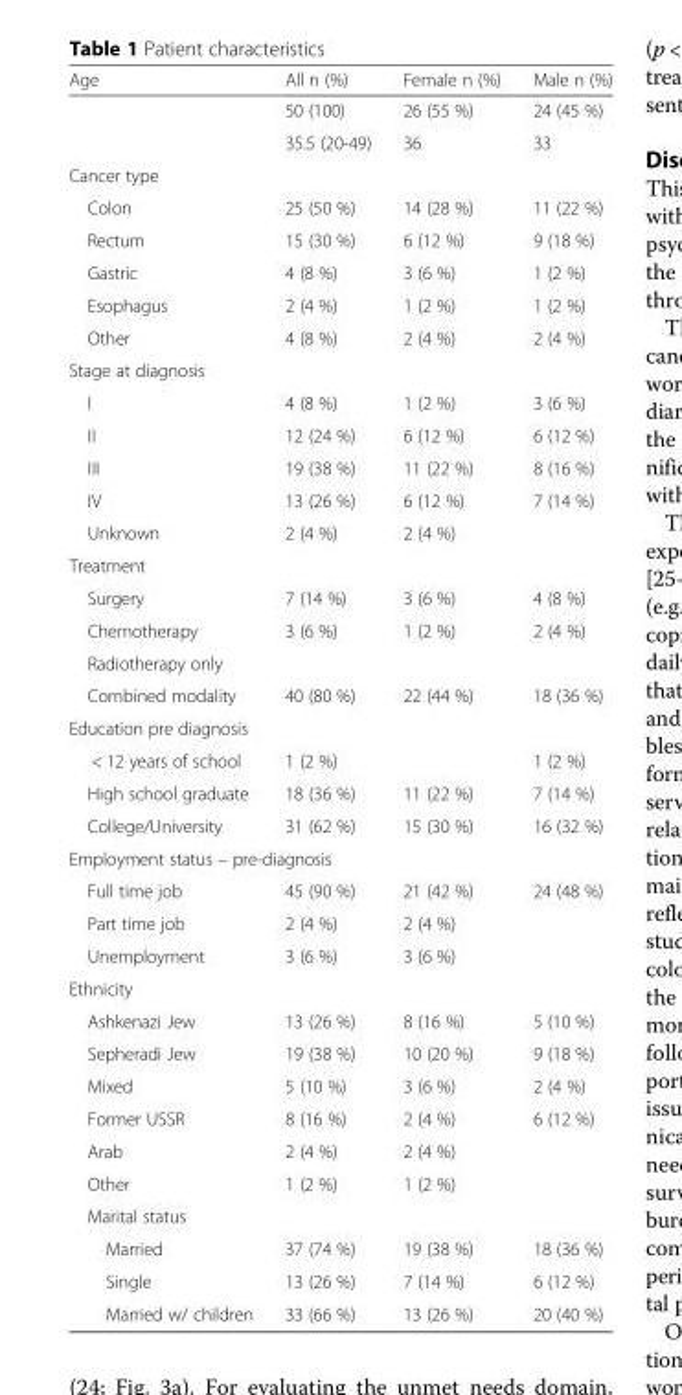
<table><thead><tr><td>Age</td><td>All n (%)</td><td>Female n (%)</td><td>Male n (%)</td></tr></thead><tbody><tr><td></td><td>50 (100)</td><td>26 (55 %)</td><td>24 (45 %)</td></tr><tr><td></td><td>35.5 (20-49)</td><td>36</td><td>33</td></tr><tr><td colspan="4">Cancer type</td></tr><tr><td>Colon</td><td>25 (50 %)</td><td>14 (28 %)</td><td>11 (22 %)</td></tr><tr><td>Rectum</td><td>15 (30 %)</td><td>6 (12 %)</td><td>9 (18 %)</td></tr><tr><td>Gastric</td><td>4 (8 %)</td><td>3 (6 %)</td><td>1 (2 %)</td></tr><tr><td>Esophagus</td><td>2 (4 %)</td><td>1 (2 %)</td><td>1 (2 %)</td></tr><tr><td>Other</td><td>4 (8 %)</td><td>2 (4 %)</td><td>2 (4 %)</td></tr><tr><td colspan="4">Stage at diagnosis</td></tr><tr><td>I</td><td>4 (8 %)</td><td>1 (2 %)</td><td>3 (6 %)</td></tr><tr><td>II</td><td>12 (24 %)</td><td>6 (12 %)</td><td>6 (12 %)</td></tr><tr><td>III</td><td>19 (38 %)</td><td>11 (22 %)</td><td>8 (16 %)</td></tr><tr><td>IV</td><td>13 (26 %)</td><td>6 (12 %)</td><td>7 (14 %)</td></tr><tr><td>Unknown</td><td>2 (4 %)</td><td>2 (4 %)</td><td></td></tr><tr><td colspan="4">Treatment</td></tr><tr><td>Surgery</td><td>7 (14 %)</td><td>3 (6 %)</td><td>4 (8 %)</td></tr><tr><td>Chemotherapy</td><td>3 (6 %)</td><td>1 (2 %)</td><td>2 (4 %)</td></tr><tr><td colspan="4">Radiotherapy only</td></tr><tr><td>Combined modality</td><td>40 (80 %)</td><td>22 (44 %)</td><td>18 (36 %)</td></tr><tr><td colspan="4">Education pre diagnosis</td></tr><tr><td>&lt; 12 years of school</td><td>1 (2 %)</td><td></td><td>1 (2 %)</td></tr><tr><td>High school graduate</td><td>18 (36 %)</td><td>11 (22 %)</td><td>7 (14 %)</td></tr><tr><td>College/University</td><td>31 (62 %)</td><td>15 (30 %)</td><td>16 (32 %)</td></tr><tr><td colspan="4">Employment status – pre-diagnosis</td></tr><tr><td>Full time job</td><td>45 (90 %)</td><td>21 (42 %)</td><td>24 (48 %)</td></tr><tr><td>Part time job</td><td>2 (4 %)</td><td>2 (4 %)</td><td></td></tr><tr><td>Unemployment</td><td>3 (6 %)</td><td>3 (6 %)</td><td></td></tr><tr><td colspan="4">Ethnicity</td></tr><tr><td>Ashkenazi Jew</td><td>13 (26 %)</td><td>8 (16 %)</td><td>5 (10 %)</td></tr><tr><td>Sepheradi Jew</td><td>19 (38 %)</td><td>10 (20 %)</td><td>9 (18 %)</td></tr><tr><td>Mixed</td><td>5 (10 %)</td><td>3 (6 %)</td><td>2 (4 %)</td></tr><tr><td>Former USSR</td><td>8 (16 %)</td><td>2 (4 %)</td><td>6 (12 %)</td></tr><tr><td>Arab</td><td>2 (4 %)</td><td>2 (4 %)</td><td></td></tr><tr><td>Other</td><td>1 (2 %)</td><td>1 (2 %)</td><td></td></tr><tr><td colspan="4">Marital status</td></tr><tr><td>Married</td><td>37 (74 %)</td><td>19 (38 %)</td><td>18 (36 %)</td></tr><tr><td>Single</td><td>13 (26 %)</td><td>7 (14 %)</td><td>6 (12 %)</td></tr><tr><td>Married w/ children</td><td>33 (66 %)</td><td>13 (26 %)</td><td>20 (40 %)</td></tr></tbody></table>